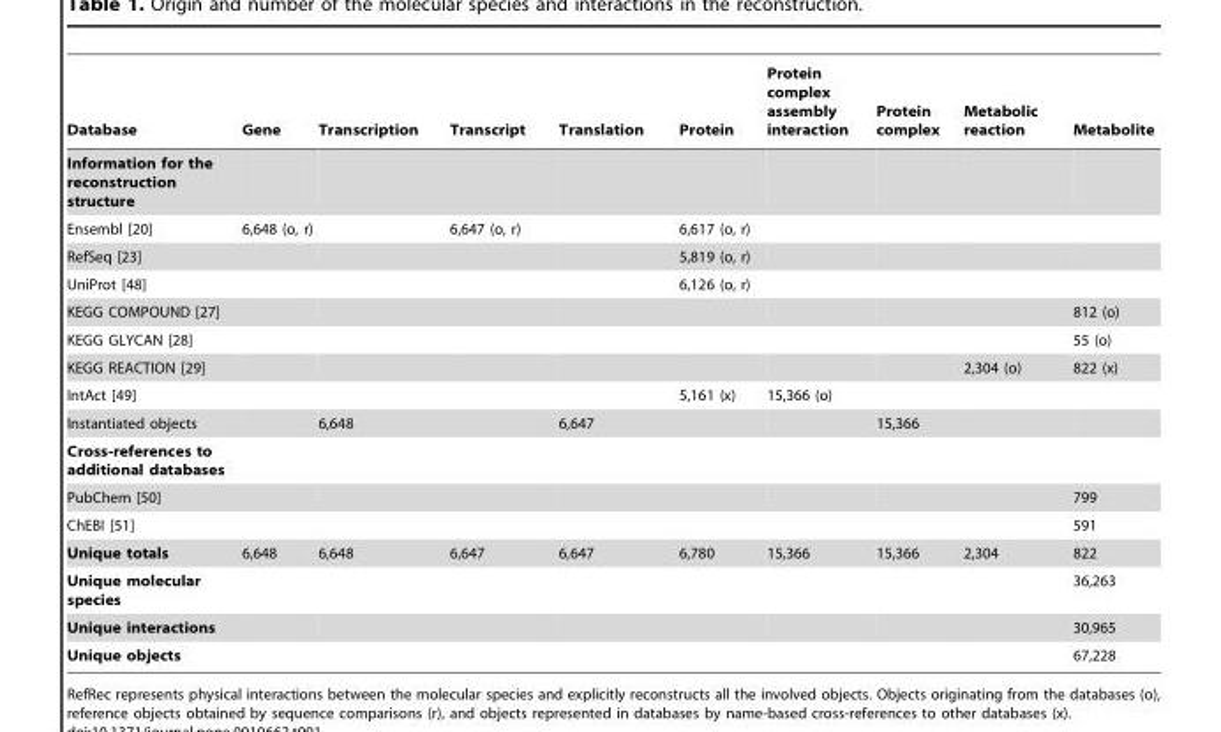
<table><thead><tr><td>Database</td><td>Gene</td><td>Transcription</td><td>Transcript</td><td>Translation</td><td>Protein</td><td>Protein complex assembly interaction</td><td>Protein complex</td><td>Metabolic reaction</td><td>Metabolite</td></tr></thead><tbody><tr><td colspan="10">Information for the reconstruction structure</td></tr><tr><td>Ensembl [20]</td><td>6,648 (o, r)</td><td></td><td>6,647 (o, r)</td><td></td><td>6,617 (o, r)</td><td></td><td></td><td></td><td></td></tr><tr><td>RefSeq [23]</td><td></td><td></td><td></td><td></td><td>5,819 (o, r)</td><td></td><td></td><td></td><td></td></tr><tr><td>UniProt [48]</td><td></td><td></td><td></td><td></td><td>6,126 (o, r)</td><td></td><td></td><td></td><td></td></tr><tr><td>KEGG COMPOUND [27]</td><td></td><td></td><td></td><td></td><td></td><td></td><td></td><td></td><td>812 (o)</td></tr><tr><td>KEGG GLYCAN [28]</td><td></td><td></td><td></td><td></td><td></td><td></td><td></td><td></td><td>55 (o)</td></tr><tr><td>KEGG REACTION [29]</td><td></td><td></td><td></td><td></td><td></td><td></td><td></td><td>2,304 (o)</td><td>822 (x)</td></tr><tr><td>IntAct [49]</td><td></td><td></td><td></td><td></td><td>5,161 (x)</td><td>15,366 (o)</td><td></td><td></td><td></td></tr><tr><td>Instantiated objects</td><td></td><td>6,648</td><td></td><td>6,647</td><td></td><td></td><td>15,366</td><td></td><td></td></tr><tr><td colspan="10">Cross-references to additional databases</td></tr><tr><td>PubChem [50]</td><td></td><td></td><td></td><td></td><td></td><td></td><td></td><td></td><td>799</td></tr><tr><td>ChEBI [51]</td><td></td><td></td><td></td><td></td><td></td><td></td><td></td><td></td><td>591</td></tr><tr><td>Unique totals</td><td>6,648</td><td>6,648</td><td>6,647</td><td>6,647</td><td>6,780</td><td>15,366</td><td>15,366</td><td>2,304</td><td>822</td></tr><tr><td>Unique molecular species</td><td></td><td></td><td></td><td></td><td></td><td></td><td></td><td></td><td>36,263</td></tr><tr><td>Unique interactions</td><td></td><td></td><td></td><td></td><td></td><td></td><td></td><td></td><td>30,965</td></tr><tr><td>Unique objects</td><td></td><td></td><td></td><td></td><td></td><td></td><td></td><td></td><td>67,228</td></tr></tbody></table>